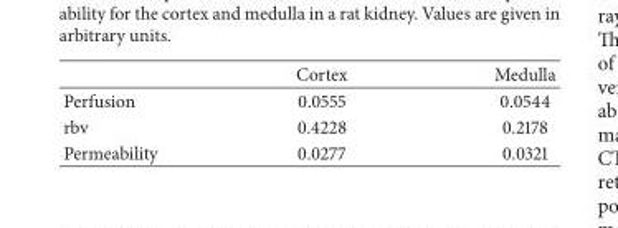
<table><thead><tr><td></td><td>Cortex</td><td>Medulla</td></tr></thead><tbody><tr><td>Perfusion</td><td>0.0555</td><td>0.0544</td></tr><tr><td>rbv</td><td>0.4228</td><td>0.2178</td></tr><tr><td>Permeability</td><td>0.0277</td><td>0.0321</td></tr></tbody></table>